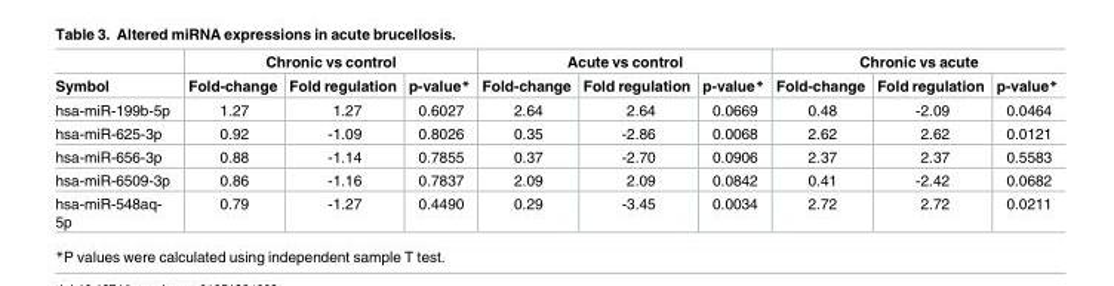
<table><thead><tr><td rowspan="2">Symbol</td><td colspan="3">Chronic vs control</td><td colspan="3">Acute vs control</td><td colspan="3">Chronic vs acute</td></tr><tr><td>Fold-change</td><td>Fold regulation</td><td>p-value*</td><td>Fold-change</td><td>Fold regulation</td><td>p-value*</td><td>Fold-change</td><td>Fold regulation</td><td>p-value*</td></tr></thead><tbody><tr><td>hsa-miR-199b-5p</td><td>1.27</td><td>1.27</td><td>0.6027</td><td>2.64</td><td>2.64</td><td>0.0669</td><td>0.48</td><td>-2.09</td><td>0.0464</td></tr><tr><td>hsa-miR-625-3p</td><td>0.92</td><td>-1.09</td><td>0.8026</td><td>0.35</td><td>-2.86</td><td>0.0068</td><td>2.62</td><td>2.62</td><td>0.0121</td></tr><tr><td>hsa-miR-656-3p</td><td>0.88</td><td>-1.14</td><td>0.7855</td><td>0.37</td><td>-2.70</td><td>0.0906</td><td>2.37</td><td>2.37</td><td>0.5583</td></tr><tr><td>hsa-miR-6509-3p</td><td>0.86</td><td>-1.16</td><td>0.7837</td><td>2.09</td><td>2.09</td><td>0.0842</td><td>0.41</td><td>-2.42</td><td>0.0682</td></tr><tr><td>hsa-miR-548aq- 5p</td><td>0.79</td><td>-1.27</td><td>0.4490</td><td>0.29</td><td>-3.45</td><td>0.0034</td><td>2.72</td><td>2.72</td><td>0.0211</td></tr></tbody></table>